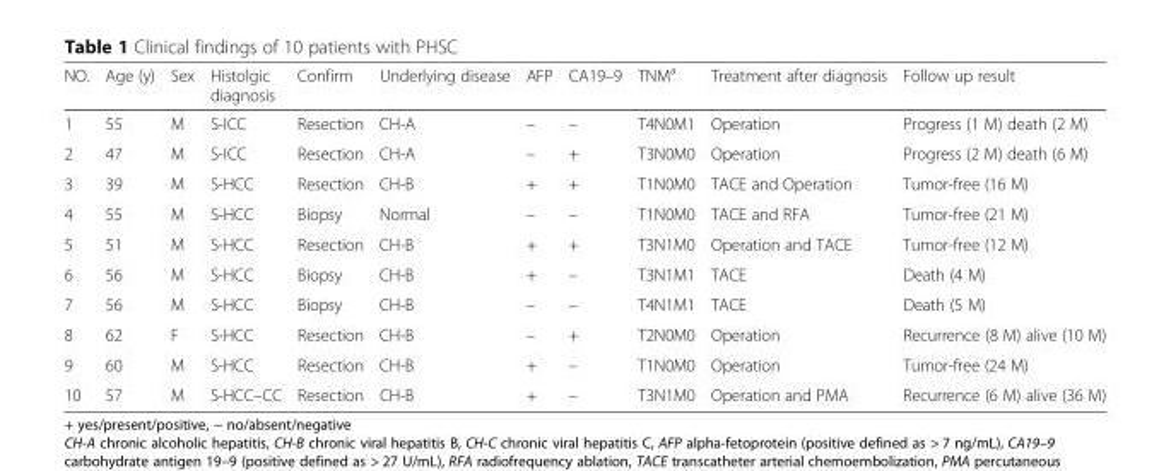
<table><thead><tr><td>NO.</td><td>Age (y)</td><td>Sex</td><td>Histolgic diagnosis</td><td>Confirm</td><td>Underlying disease</td><td>AFP</td><td>CA19–9</td><td>TNM<sup>a</sup></td><td>Treatment after diagnosis</td><td>Follow up result</td></tr></thead><tbody><tr><td>1</td><td>55</td><td>M</td><td>S-ICC</td><td>Resection</td><td>CH-A</td><td>–</td><td>–</td><td>T4N0M1</td><td>Operation</td><td>Progress (1 M) death (2 M)</td></tr><tr><td>2</td><td>47</td><td>M</td><td>S-ICC</td><td>Resection</td><td>CH-A</td><td>–</td><td>+</td><td>T3N0M0</td><td>Operation</td><td>Progress (2 M) death (6 M)</td></tr><tr><td>3</td><td>39</td><td>M</td><td>S-HCC</td><td>Resection</td><td>CH-B</td><td>+</td><td>+</td><td>T1N0M0</td><td>TACE and Operation</td><td>Tumor-free (16 M)</td></tr><tr><td>4</td><td>55</td><td>M</td><td>S-HCC</td><td>Biopsy</td><td>Normal</td><td>–</td><td>–</td><td>T1N0M0</td><td>TACE and RFA</td><td>Tumor-free (21 M)</td></tr><tr><td>5</td><td>51</td><td>M</td><td>S-HCC</td><td>Resection</td><td>CH-B</td><td>+</td><td>+</td><td>T3N1M0</td><td>Operation and TACE</td><td>Tumor-free (12 M)</td></tr><tr><td>6</td><td>56</td><td>M</td><td>S-HCC</td><td>Biopsy</td><td>CH-B</td><td>+</td><td>–</td><td>T3N1M1</td><td>TACE</td><td>Death (4 M)</td></tr><tr><td>7</td><td>56</td><td>M</td><td>S-HCC</td><td>Biopsy</td><td>CH-B</td><td>–</td><td>–</td><td>T4N1M1</td><td>TACE</td><td>Death (5 M)</td></tr><tr><td>8</td><td>62</td><td>F</td><td>S-HCC</td><td>Resection</td><td>CH-B</td><td>–</td><td>+</td><td>T2N0M0</td><td>Operation</td><td>Recurrence (8 M) alive (10 M)</td></tr><tr><td>9</td><td>60</td><td>M</td><td>S-HCC</td><td>Resection</td><td>CH-B</td><td>+</td><td>–</td><td>T1N0M0</td><td>Operation</td><td>Tumor-free (24 M)</td></tr><tr><td>10</td><td>57</td><td>M</td><td>S-HCC–CC</td><td>Resection</td><td>CH-B</td><td>+</td><td>–</td><td>T3N1M0</td><td>Operation and PMA</td><td>Recurrence (6 M) alive (36 M)</td></tr></tbody></table>